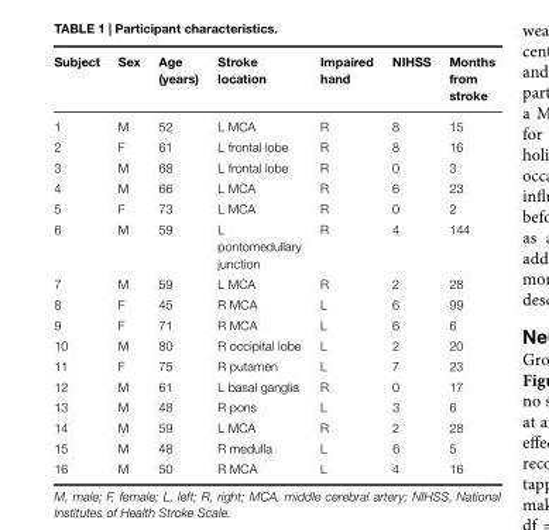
<table><thead><tr><td>Subject</td><td>Sex</td><td>Age (years)</td><td>Stroke location</td><td>Impaired hand</td><td>NIHSS</td><td>Months from stroke</td></tr></thead><tbody><tr><td>1</td><td>M</td><td>52</td><td>L MCA</td><td>R</td><td>8</td><td>15</td></tr><tr><td>2</td><td>F</td><td>61</td><td>L frontal lobe</td><td>R</td><td>8</td><td>16</td></tr><tr><td>3</td><td>M</td><td>68</td><td>L frontal lobe</td><td>R</td><td>0</td><td>3</td></tr><tr><td>4</td><td>M</td><td>66</td><td>L MCA</td><td>R</td><td>6</td><td>23</td></tr><tr><td>5</td><td>F</td><td>73</td><td>L MCA</td><td>R</td><td>0</td><td>2</td></tr><tr><td>6</td><td>M</td><td>59</td><td>L pontomedullary junction</td><td>R</td><td>4</td><td>144</td></tr><tr><td>7</td><td>M</td><td>59</td><td>L MCA</td><td>R</td><td>2</td><td>28</td></tr><tr><td>8</td><td>F</td><td>45</td><td>R MCA</td><td>L</td><td>6</td><td>99</td></tr><tr><td>9</td><td>F</td><td>71</td><td>R MCA</td><td>L</td><td>6</td><td>6</td></tr><tr><td>10</td><td>M</td><td>80</td><td>R occipital lobe</td><td>L</td><td>2</td><td>20</td></tr><tr><td>11</td><td>F</td><td>75</td><td>R putamen</td><td>L</td><td>7</td><td>23</td></tr><tr><td>12</td><td>M</td><td>61</td><td>L basal ganglia</td><td>R</td><td>0</td><td>17</td></tr><tr><td>13</td><td>M</td><td>48</td><td>R pons</td><td>L</td><td>3</td><td>6</td></tr><tr><td>14</td><td>M</td><td>59</td><td>L MCA</td><td>R</td><td>2</td><td>28</td></tr><tr><td>15</td><td>M</td><td>48</td><td>R medulla</td><td>L</td><td>6</td><td>5</td></tr><tr><td>16</td><td>M</td><td>50</td><td>R MCA</td><td>L</td><td>4</td><td>16</td></tr></tbody></table>